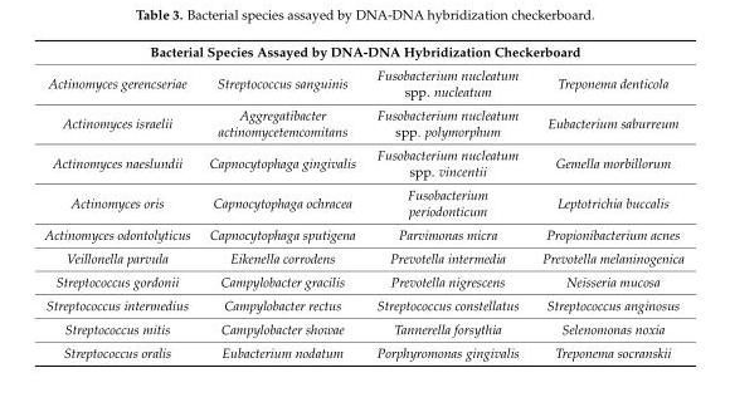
<table><thead><tr><td colspan="4">Bacterial Species Assayed by DNA-DNA Hybridization Checkerboard</td></tr><tr><td>Actinomyces gerencseriae</td><td>Streptococcus sanguinis</td><td>Fusobacterium nucleatum spp. nucleatum</td><td>Treponema denticola</td></tr></thead><tbody><tr><td>Actinomyces israelii</td><td>Aggregatibacter actinomycetemcomitans</td><td>Fusobacterium nucleatum spp. polymorphum</td><td>Eubacterium saburreum</td></tr><tr><td>Actinomyces naeslundii</td><td>Capnocytophaga gingivalis</td><td>Fusobacterium nucleatum spp. vincentii</td><td>Gemella morbillorum</td></tr><tr><td>Actinomyces oris</td><td>Capnocytophaga ochracea</td><td>Fusobacterium periodonticum</td><td>Leptotrichia buccalis</td></tr><tr><td>Actinomyces odontolyticus</td><td>Capnocytophaga sputigena</td><td>Parvimonas micra</td><td>Propionibacterium acnes</td></tr><tr><td>Veillonella parvula</td><td>Eikenella corrodens</td><td>Prevotella intermedia</td><td>Prevotella melaninogenica</td></tr><tr><td>Streptococcus gordonii</td><td>Campylobacter gracilis</td><td>Prevotella nigrescens</td><td>Neisseria mucosa</td></tr><tr><td>Streptococcus intermedius</td><td>Campylobacter rectus</td><td>Streptococcus constellatus</td><td>Streptococcus anginosus</td></tr><tr><td>Streptococcus mitis</td><td>Campylobacter showae</td><td>Tannerella forsythia</td><td>Selenomonas noxia</td></tr><tr><td>Streptococcus oralis</td><td>Eubacterium nodatum</td><td>Porphyromonas gingivalis</td><td>Treponema socranskii</td></tr></tbody></table>